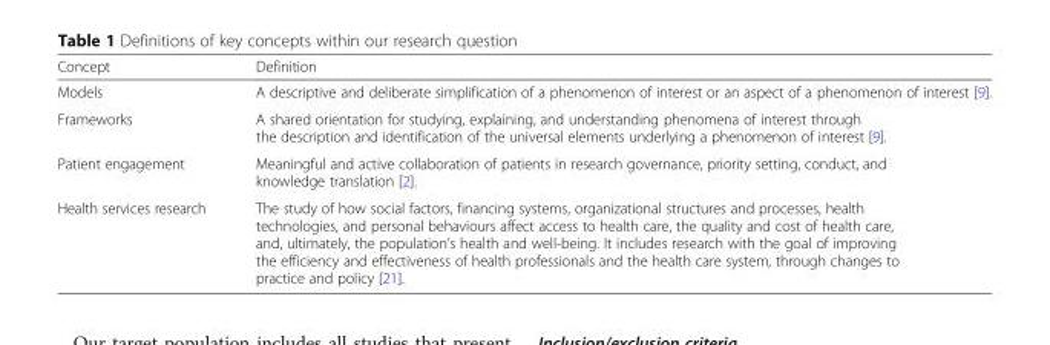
<table><thead><tr><td>Concept</td><td>Definition</td></tr></thead><tbody><tr><td>Models</td><td>A descriptive and deliberate simplification of a phenomenon of interest or an aspect of a phenomenon of interest [9].</td></tr><tr><td>Frameworks</td><td>A shared orientation for studying, explaining, and understanding phenomena of interest through the description and identification of the universal elements underlying a phenomenon of interest [9].</td></tr><tr><td>Patient engagement</td><td>Meaningful and active collaboration of patients in research governance, priority setting, conduct, and knowledge translation [2].</td></tr><tr><td>Health services research</td><td>The study of how social factors, financing systems, organizational structures and processes, health technologies, and personal behaviours affect access to health care, the quality and cost of health care, and, ultimately, the population’s health and well-being. It includes research with the goal of improving the efficiency and effectiveness of health professionals and the health care system, through changes to practice and policy [21].</td></tr></tbody></table>